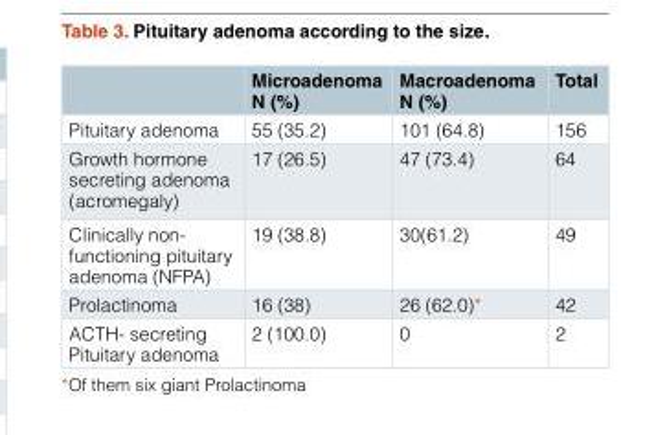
<table><thead><tr><td></td><td>Microadenoma N (%)</td><td>Macroadenoma N (%)</td><td>Total</td></tr></thead><tbody><tr><td>Pituitary adenoma</td><td>55 (35.2)</td><td>101 (64.8)</td><td>156</td></tr><tr><td>Growth hormone secreting adenoma (acromegaly)</td><td>17 (26.5)</td><td>47 (73.4)</td><td>64</td></tr><tr><td>Clinically non- functioning pituitary adenoma (NFPA)</td><td>19 (38.8)</td><td>30(61.2)</td><td>49</td></tr><tr><td>Prolactinoma</td><td>16 (38)</td><td>26 (62.0)*</td><td>42</td></tr><tr><td>ACTH- secreting Pituitary adenoma</td><td>2 (100.0)</td><td>0</td><td>2</td></tr></tbody></table>